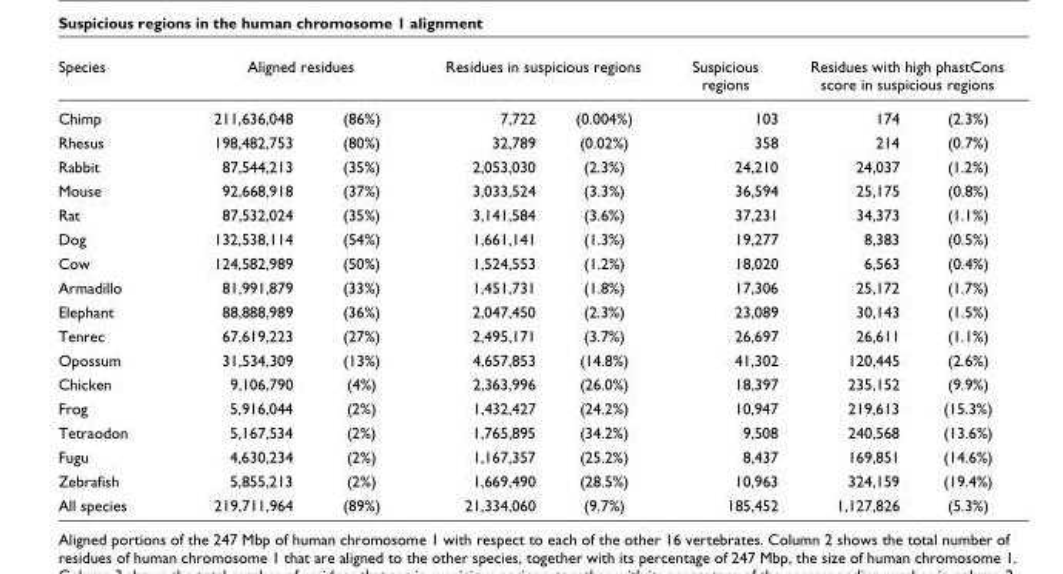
<table><thead><tr><td rowspan="2">Species Chimp</td><td colspan="2">Aligned residues</td><td colspan="2">Residues in suspicious regions</td><td rowspan="2">Suspicious regions 103</td><td colspan="2">Residues with high phastCons score in suspicious regions</td></tr><tr><td>211,636,048</td><td>(86%)</td><td>7,722</td><td>(0.004%)</td><td>174</td><td>(2.3%)</td></tr></thead><tbody><tr><td>Rhesus</td><td>198,482,753</td><td>(80%)</td><td>32,789</td><td>(0.02%)</td><td>358</td><td>214</td><td>(0.7%)</td></tr><tr><td>Rabbit</td><td>87,544,213</td><td>(35%)</td><td>2,053,030</td><td>(2.3%)</td><td>24,210</td><td>24,037</td><td>(1.2%)</td></tr><tr><td>Mouse</td><td>92,668,918</td><td>(37%)</td><td>3,033,524</td><td>(3.3%)</td><td>36,594</td><td>25,175</td><td>(0.8%)</td></tr><tr><td>Rat</td><td>87,532,024</td><td>(35%)</td><td>3,141,584</td><td>(3.6%)</td><td>37,231</td><td>34,373</td><td>(1.1%)</td></tr><tr><td>Dog</td><td>132,538,114</td><td>(54%)</td><td>1,661,141</td><td>(1.3%)</td><td>19,277</td><td>8,383</td><td>(0.5%)</td></tr><tr><td>Cow</td><td>124,582,989</td><td>(50%)</td><td>1,524,553</td><td>(1.2%)</td><td>18,020</td><td>6,563</td><td>(0.4%)</td></tr><tr><td>Armadillo</td><td>81,991,879</td><td>(33%)</td><td>1,451,731</td><td>(1.8%)</td><td>17,306</td><td>25,172</td><td>(1.7%)</td></tr><tr><td>Elephant</td><td>88,888,989</td><td>(36%)</td><td>2,047,450</td><td>(2.3%)</td><td>23,089</td><td>30,143</td><td>(1.5%)</td></tr><tr><td>Tenrec</td><td>67,619,223</td><td>(27%)</td><td>2,495,171</td><td>(3.7%)</td><td>26,697</td><td>26,611</td><td>(1.1%)</td></tr><tr><td>Opossum</td><td>31,534,309</td><td>(13%)</td><td>4,657,853</td><td>(14.8%)</td><td>41,302</td><td>120,445</td><td>(2.6%)</td></tr><tr><td>Chicken</td><td>9,106,790</td><td>(4%)</td><td>2,363,996</td><td>(26.0%)</td><td>18,397</td><td>235,152</td><td>(9.9%)</td></tr><tr><td>Frog</td><td>5,916,044</td><td>(2%)</td><td>1,432,427</td><td>(24.2%)</td><td>10,947</td><td>219,613</td><td>(15.3%)</td></tr><tr><td>Tetraodon</td><td>5,167,534</td><td>(2%)</td><td>1,765,895</td><td>(34.2%)</td><td>9,508</td><td>240,568</td><td>(13.6%)</td></tr><tr><td>Fugu</td><td>4,630,234</td><td>(2%)</td><td>1,167,357</td><td>(25.2%)</td><td>8,437</td><td>169,851</td><td>(14.6%)</td></tr><tr><td>Zebrafish</td><td>5,855,213</td><td>(2%)</td><td>1,669,490</td><td>(28.5%)</td><td>10,963</td><td>324,159</td><td>(19.4%)</td></tr><tr><td>All species</td><td>219,711,964</td><td>(89%)</td><td>21,334,060</td><td>(9.7%)</td><td>185,452</td><td>1,127,826</td><td>(5.3%)</td></tr></tbody></table>